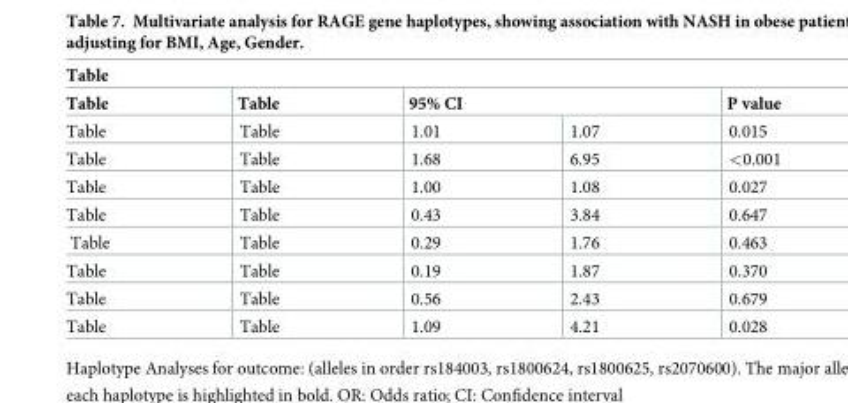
<table><thead><tr><td colspan="5">Table</td></tr><tr><td rowspan="2">Table Table</td><td rowspan="2">Table Table</td><td colspan="2">95% CI</td><td rowspan="2">P value 0.015</td></tr><tr><td>1.01</td><td>1.07</td></tr></thead><tbody><tr><td>Table</td><td>Table</td><td>1.68</td><td>6.95</td><td>&lt;0.001</td></tr><tr><td>Table</td><td>Table</td><td>1.00</td><td>1.08</td><td>0.027</td></tr><tr><td>Table</td><td>Table</td><td>0.43</td><td>3.84</td><td>0.647</td></tr><tr><td>Table</td><td>Table</td><td>0.29</td><td>1.76</td><td>0.463</td></tr><tr><td>Table</td><td>Table</td><td>0.19</td><td>1.87</td><td>0.370</td></tr><tr><td>Table</td><td>Table</td><td>0.56</td><td>2.43</td><td>0.679</td></tr><tr><td>Table</td><td>Table</td><td>1.09</td><td>4.21</td><td>0.028</td></tr></tbody></table>